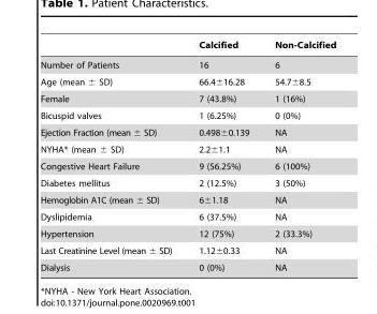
<table><thead><tr><td></td><td>Calcified</td><td>Non-Calcified</td></tr></thead><tbody><tr><td>Number of Patients</td><td>16</td><td>6</td></tr><tr><td>Age (mean ± SD)</td><td>66.4±16.28</td><td>54.7±8.5</td></tr><tr><td>Female</td><td>7 (43.8%)</td><td>1 (16%)</td></tr><tr><td>Bicuspid valves</td><td>1 (6.25%)</td><td>0 (0%)</td></tr><tr><td>Ejection Fraction (mean ± SD)</td><td>0.498±0.139</td><td>NA</td></tr><tr><td>NYHA* (mean ± SD)</td><td>2.2±1.1</td><td>NA</td></tr><tr><td>Congestive Heart Failure</td><td>9 (56.25%)</td><td>6 (100%)</td></tr><tr><td>Diabetes mellitus</td><td>2 (12.5%)</td><td>3 (50%)</td></tr><tr><td>Hemoglobin A1C (mean ± SD)</td><td>6±1.18</td><td>NA</td></tr><tr><td>Dyslipidemia</td><td>6 (37.5%)</td><td>NA</td></tr><tr><td>Hypertension</td><td>12 (75%)</td><td>2 (33.3%)</td></tr><tr><td>Last Creatinine Level (mean ± SD)</td><td>1.12±0.33</td><td>NA</td></tr><tr><td>Dialysis</td><td>0 (0%)</td><td>NA</td></tr></tbody></table>